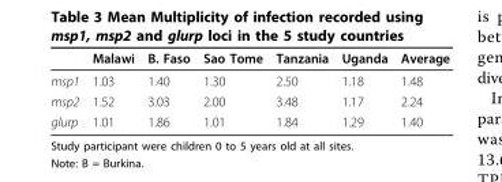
<table><thead><tr><td></td><td>Malawi</td><td>B. Faso</td><td>Sao Tome</td><td>Tanzania</td><td>Uganda</td><td>Average</td></tr></thead><tbody><tr><td>msp1</td><td>1.03</td><td>1.40</td><td>1.30</td><td>2.50</td><td>1.18</td><td>1.48</td></tr><tr><td>msp2</td><td>1.52</td><td>3.03</td><td>2.00</td><td>3.48</td><td>1.17</td><td>2.24</td></tr><tr><td>glurp</td><td>1.01</td><td>1.86</td><td>1.01</td><td>1.84</td><td>1.29</td><td>1.40</td></tr></tbody></table>